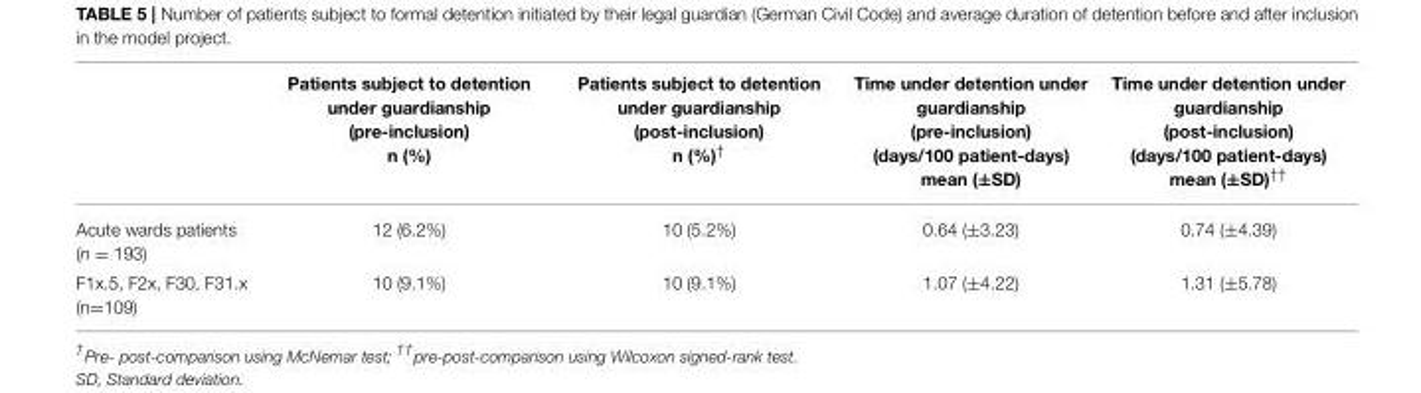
<table><thead><tr><td></td><td>Patients subject to detention under guardianship (pre-inclusion) n (%)</td><td>Patients subject to detention under guardianship (post-inclusion) n (%)<sup>†</sup></td><td>Time under detention under guardianship (pre-inclusion) (days/100 patient-days) mean (±SD)</td><td>Time under detention under guardianship (post-inclusion) (days/100 patient-days) mean (±SD)<sup>††</sup></td></tr></thead><tbody><tr><td>Acute wards patients (n = 193)</td><td>12 (6.2%)</td><td>10 (5.2%)</td><td>0.64 (±3.23)</td><td>0.74 (±4.39)</td></tr><tr><td>F1x.5, F2x, F30, F31.x (n=109)</td><td>10 (9.1%)</td><td>10 (9.1%)</td><td>1.07 (±4.22)</td><td>1.31 (±5.78)</td></tr></tbody></table>